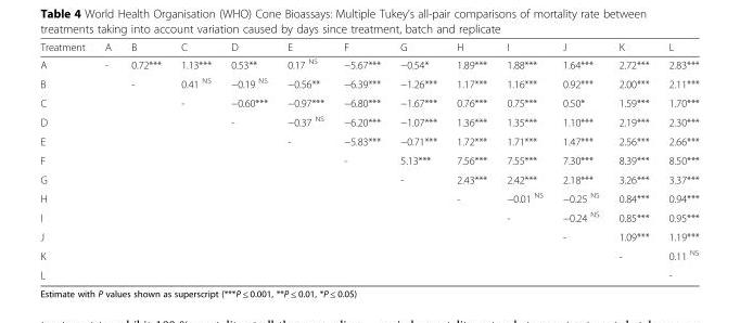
<table><thead><tr><td>Treatment</td><td>A</td><td>B</td><td>C</td><td>D</td><td>E</td><td>F</td><td>G</td><td>H</td><td>I</td><td>J</td><td>K</td><td>L</td></tr></thead><tbody><tr><td>A</td><td>-</td><td>0.72***</td><td>1.13***</td><td>0.53**</td><td>0.17 <sup>NS</sup></td><td>−5.67***</td><td>−0.54*</td><td>1.89***</td><td>1.88***</td><td>1.64***</td><td>2.72***</td><td>2.83***</td></tr><tr><td>B</td><td></td><td>-</td><td>0.41 <sup>NS</sup></td><td>−0.19 <sup>NS</sup></td><td>−0.56**</td><td>−6.39***</td><td>−1.26***</td><td>1.17***</td><td>1.16***</td><td>0.92***</td><td>2.00***</td><td>2.11***</td></tr><tr><td>C</td><td></td><td></td><td>-</td><td>−0.60***</td><td>−0.97***</td><td>−6.80***</td><td>−1.67***</td><td>0.76***</td><td>0.75***</td><td>0.50*</td><td>1.59***</td><td>1.70***</td></tr><tr><td>D</td><td></td><td></td><td></td><td>-</td><td>−0.37 <sup>NS</sup></td><td>−6.20***</td><td>−1.07***</td><td>1.36***</td><td>1.35***</td><td>1.10***</td><td>2.19***</td><td>2.30***</td></tr><tr><td>E</td><td></td><td></td><td></td><td></td><td>-</td><td>−5.83***</td><td>−0.71***</td><td>1.72***</td><td>1.71***</td><td>1.47***</td><td>2.56***</td><td>2.66***</td></tr><tr><td>F</td><td></td><td></td><td></td><td></td><td></td><td>-</td><td>5.13***</td><td>7.56***</td><td>7.55***</td><td>7.30***</td><td>8.39***</td><td>8.50***</td></tr><tr><td>G</td><td></td><td></td><td></td><td></td><td></td><td></td><td>-</td><td>2.43***</td><td>2.42***</td><td>2.18***</td><td>3.26***</td><td>3.37***</td></tr><tr><td>H</td><td></td><td></td><td></td><td></td><td></td><td></td><td></td><td>-</td><td>−0.01 <sup>NS</sup></td><td>−0.25 <sup>NS</sup></td><td>0.84***</td><td>0.94***</td></tr><tr><td>I</td><td></td><td></td><td></td><td></td><td></td><td></td><td></td><td></td><td>-</td><td>−0.24 <sup>NS</sup></td><td>0.85***</td><td>0.95***</td></tr><tr><td>J</td><td></td><td></td><td></td><td></td><td></td><td></td><td></td><td></td><td></td><td>-</td><td>1.09***</td><td>1.19***</td></tr><tr><td>K</td><td></td><td></td><td></td><td></td><td></td><td></td><td></td><td></td><td></td><td></td><td>-</td><td>0.11 <sup>NS</sup></td></tr><tr><td>L</td><td></td><td></td><td></td><td></td><td></td><td></td><td></td><td></td><td></td><td></td><td></td><td>-</td></tr></tbody></table>